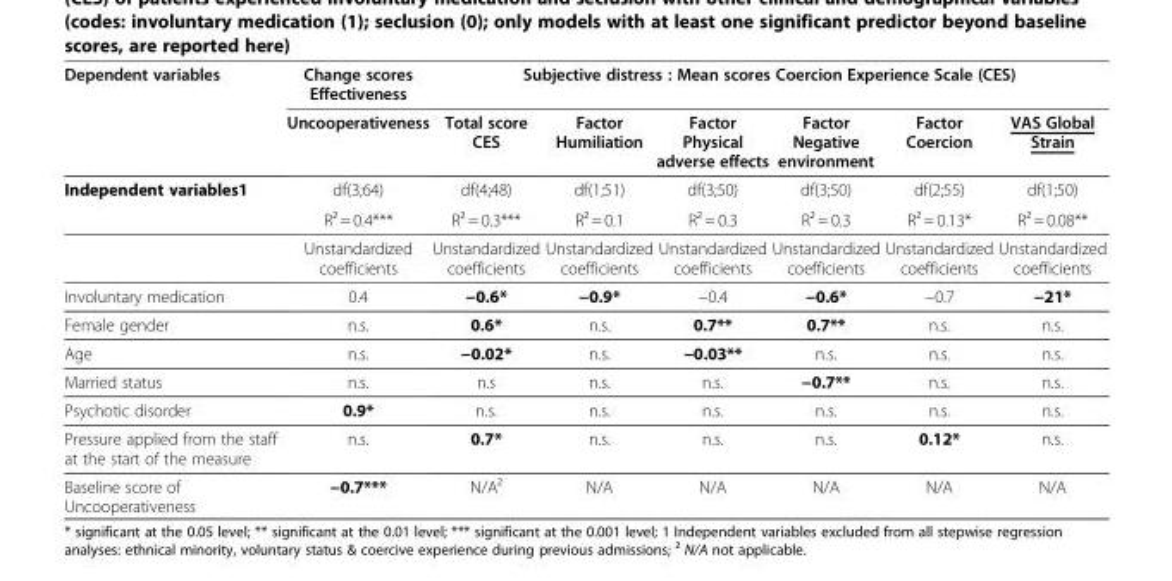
<table><thead><tr><td rowspan="2">Dependent variables</td><td rowspan="2">Change scores Effectiveness Uncooperativeness</td><td colspan="6">Subjective distress : Mean scores Coercion Experience Scale (CES)</td></tr><tr><td>Total score CES</td><td>Factor Humiliation</td><td>Factor Physical adverse effects</td><td>Factor Negative environment</td><td>Factor Coercion</td><td>VAS Global Strain</td></tr></thead><tbody><tr><td rowspan="3">Independent variables1</td><td>df(3;64)</td><td>df(4;48)</td><td>df(1;51)</td><td>df(3;50)</td><td>df(3;50)</td><td>df(2;55)</td><td>df(1;50)</td></tr><tr><td>R² = 0.4***</td><td>R² = 0.3***</td><td>R² = 0.1</td><td>R² = 0.3</td><td>R² = 0.3</td><td>R² = 0.13*</td><td>R² = 0.08**</td></tr><tr><td>Unstandardized coefficients</td><td>Unstandardized coefficients</td><td>Unstandardized coefficients</td><td>Unstandardized coefficients</td><td>Unstandardized coefficients</td><td>Unstandardized coefficients</td><td>Unstandardized coefficients</td></tr><tr><td>Involuntary medication</td><td>0.4</td><td>−0.6*</td><td>−0.9*</td><td>−0.4</td><td>−0.6*</td><td>−0.7</td><td>−21*</td></tr><tr><td>Female gender</td><td>n.s.</td><td>0.6*</td><td>n.s.</td><td>0.7**</td><td>0.7**</td><td>n.s.</td><td>n.s.</td></tr><tr><td>Age</td><td>n.s.</td><td>−0.02*</td><td>n.s.</td><td>−0.03**</td><td>n.s.</td><td>n.s.</td><td>n.s.</td></tr><tr><td>Married status</td><td>n.s.</td><td>n.s</td><td>n.s.</td><td>n.s.</td><td>−0.7**</td><td>n.s.</td><td>n.s.</td></tr><tr><td>Psychotic disorder</td><td>0.9*</td><td>n.s.</td><td>n.s.</td><td>n.s.</td><td>n.s.</td><td>n.s.</td><td>n.s.</td></tr><tr><td>Pressure applied from the staff at the start of the measure</td><td>n.s.</td><td>0.7*</td><td>n.s.</td><td>n.s.</td><td>n.s.</td><td>0.12*</td><td>n.s.</td></tr><tr><td>Baseline score of Uncooperativeness</td><td>−0.7***</td><td>N/A²</td><td>N/A</td><td>N/A</td><td>N/A</td><td>N/A</td><td>N/A</td></tr></tbody></table>